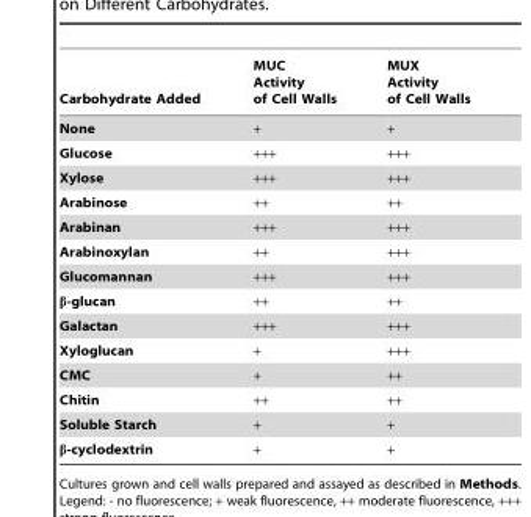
<table><thead><tr><td>Carbohydrate Added</td><td>MUC Activity of Cell Walls</td><td>MUX Activity of Cell Walls</td></tr></thead><tbody><tr><td>None</td><td>+</td><td>+</td></tr><tr><td>Glucose</td><td>+++</td><td>+++</td></tr><tr><td>Xylose</td><td>+++</td><td>+++</td></tr><tr><td>Arabinose</td><td>++</td><td>++</td></tr><tr><td>Arabinan</td><td>+++</td><td>+++</td></tr><tr><td>Arabinoxylan</td><td>++</td><td>+++</td></tr><tr><td>Glucomannan</td><td>+++</td><td>+++</td></tr><tr><td>β-glucan</td><td>++</td><td>++</td></tr><tr><td>Galactan</td><td>+++</td><td>+++</td></tr><tr><td>Xyloglucan</td><td>+</td><td>+++</td></tr><tr><td>CMC</td><td>+</td><td>++</td></tr><tr><td>Chitin</td><td>++</td><td>++</td></tr><tr><td>Soluble Starch</td><td>+</td><td>+</td></tr><tr><td>β-cyclodextrin</td><td>+</td><td>+</td></tr></tbody></table>